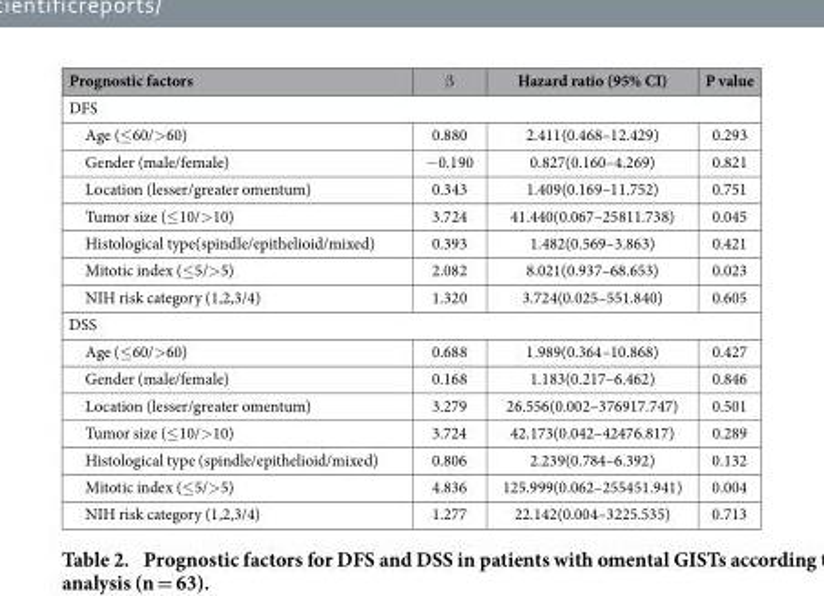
<table><thead><tr><td>Prognostic factors</td><td>β</td><td>Hazard ratio (95% CI)</td><td>P value</td></tr></thead><tbody><tr><td colspan="4">DFS</td></tr><tr><td>Age (≤ 60/&gt; 60)</td><td>0.880</td><td>2.411(0.468–12.429)</td><td>0.293</td></tr><tr><td>Gender (male/female)</td><td>− 0.190</td><td>0.827(0.160–4.269)</td><td>0.821</td></tr><tr><td>Location (lesser/greater omentum)</td><td>0.343</td><td>1.409(0.169–11.752)</td><td>0.751</td></tr><tr><td>Tumor size (≤ 10/&gt; 10)</td><td>3.724</td><td>41.440(0.067–25811.738)</td><td>0.045</td></tr><tr><td>Histological type(spindle/epithelioid/mixed)</td><td>0.393</td><td>1.482(0.569–3.863)</td><td>0.421</td></tr><tr><td>Mitotic index (≤ 5/&gt; 5)</td><td>2.082</td><td>8.021(0.937–68.653)</td><td>0.023</td></tr><tr><td>NIH risk category (1,2,3/4)</td><td>1.320</td><td>3.724(0.025–551.840)</td><td>0.605</td></tr><tr><td colspan="4">DSS</td></tr><tr><td>Age (≤ 60/&gt; 60)</td><td>0.688</td><td>1.989(0.364–10.868)</td><td>0.427</td></tr><tr><td>Gender (male/female)</td><td>0.168</td><td>1.183(0.217–6.462)</td><td>0.846</td></tr><tr><td>Location (lesser/greater omentum)</td><td>3.279</td><td>26.556(0.002–376917.747)</td><td>0.501</td></tr><tr><td>Tumor size (≤ 10/&gt; 10)</td><td>3.724</td><td>42.173(0.042–42476.817)</td><td>0.289</td></tr><tr><td>Histological type (spindle/epithelioid/mixed)</td><td>0.806</td><td>2.239(0.784–6.392)</td><td>0.132</td></tr><tr><td>Mitotic index (≤ 5/&gt; 5)</td><td>4.836</td><td>125.999(0.062–255451.941)</td><td>0.004</td></tr><tr><td>NIH risk category (1,2,3/4)</td><td>1.277</td><td>22.142(0.004–3225.535)</td><td>0.713</td></tr></tbody></table>